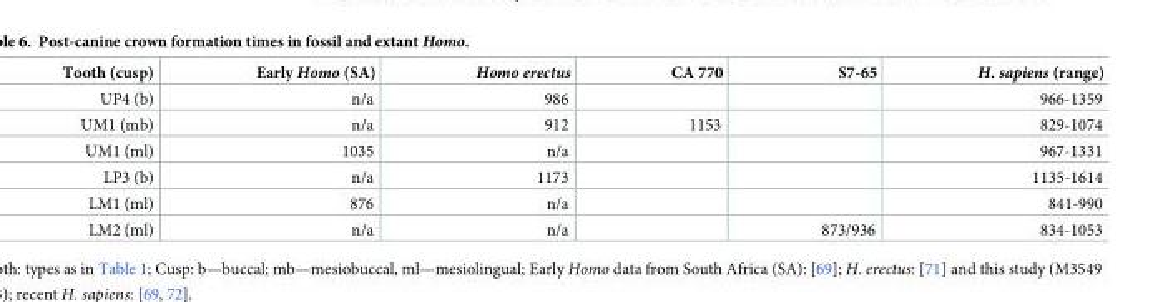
<table><thead><tr><td>Tooth (cusp)</td><td>Early Homo (SA)</td><td>Homo erectus</td><td>CA 770</td><td>S7-65</td><td>H. sapiens (range)</td></tr></thead><tbody><tr><td>UP4 (b)</td><td>n/a</td><td>986</td><td></td><td></td><td>966-1359</td></tr><tr><td>UM1 (mb)</td><td>n/a</td><td>912</td><td>1153</td><td></td><td>829-1074</td></tr><tr><td>UM1 (ml)</td><td>1035</td><td>n/a</td><td></td><td></td><td>967-1331</td></tr><tr><td>LP3 (b)</td><td>n/a</td><td>1173</td><td></td><td></td><td>1135-1614</td></tr><tr><td>LM1 (ml)</td><td>876</td><td>n/a</td><td></td><td></td><td>841-990</td></tr><tr><td>LM2 (ml)</td><td>n/a</td><td>n/a</td><td></td><td>873/936</td><td>834-1053</td></tr></tbody></table>